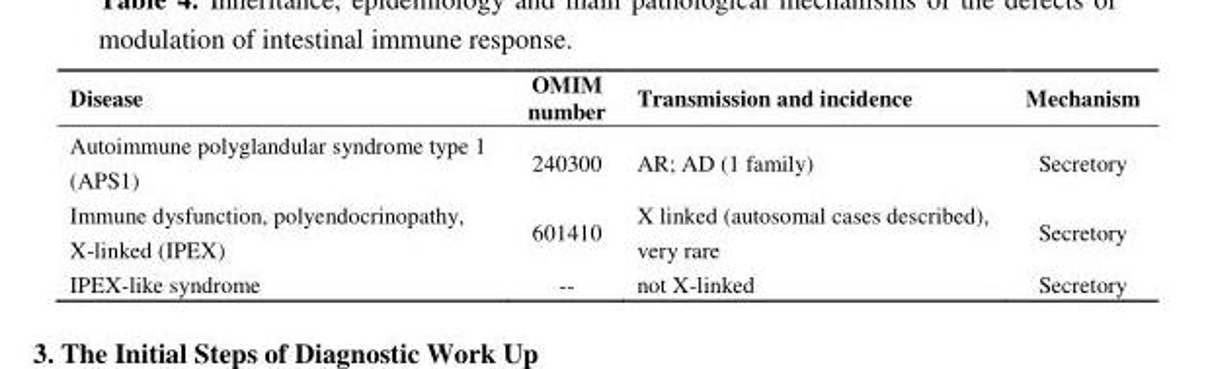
<table><thead><tr><td>Disease</td><td>OMIM number</td><td>Transmission and incidence</td><td>Mechanism</td></tr></thead><tbody><tr><td>Autoimmune polyglandular syndrome type 1 (APS1)</td><td>240300</td><td>AR; AD (1 family)</td><td>Secretory</td></tr><tr><td>Immune dysfunction, polyendocrinopathy, X-linked (IPEX)</td><td>601410</td><td>X linked (autosomal cases described), very rare</td><td>Secretory</td></tr><tr><td>IPEX-like syndrome</td><td>--</td><td>not X-linked</td><td>Secretory</td></tr></tbody></table>